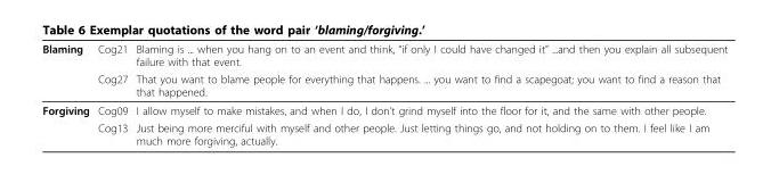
<table><thead><tr><td rowspan="2">Blaming</td><td rowspan="2">Cog21 Cog27</td><td rowspan="2">Blaming is ... when you hang on to an event and think, “if only I could have changed it” ...and then you explain all subsequent failure with that event. That you want to blame people for everything that happens. ... you want to find a scapegoat; you want to find a reason that that happened.</td></tr><tr></tr></thead><tbody><tr><td rowspan="2">Forgiving</td><td>Cog09</td><td>I allow myself to make mistakes, and when I do, I don’t grind myself into the floor for it, and the same with other people.</td></tr><tr><td>Cog13</td><td>Just being more merciful with myself and other people. Just letting things go, and not holding on to them. I feel like I am much more forgiving, actually.</td></tr></tbody></table>